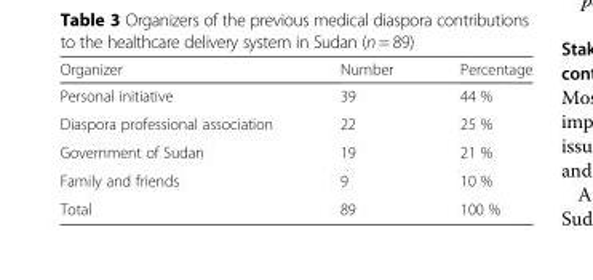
<table><thead><tr><td>Organizer</td><td>Number</td><td>Percentage</td></tr></thead><tbody><tr><td>Personal initiative</td><td>39</td><td>44 %</td></tr><tr><td>Diaspora professional association</td><td>22</td><td>25 %</td></tr><tr><td>Government of Sudan</td><td>19</td><td>21 %</td></tr><tr><td>Family and friends</td><td>9</td><td>10 %</td></tr><tr><td>Total</td><td>89</td><td>100 %</td></tr></tbody></table>